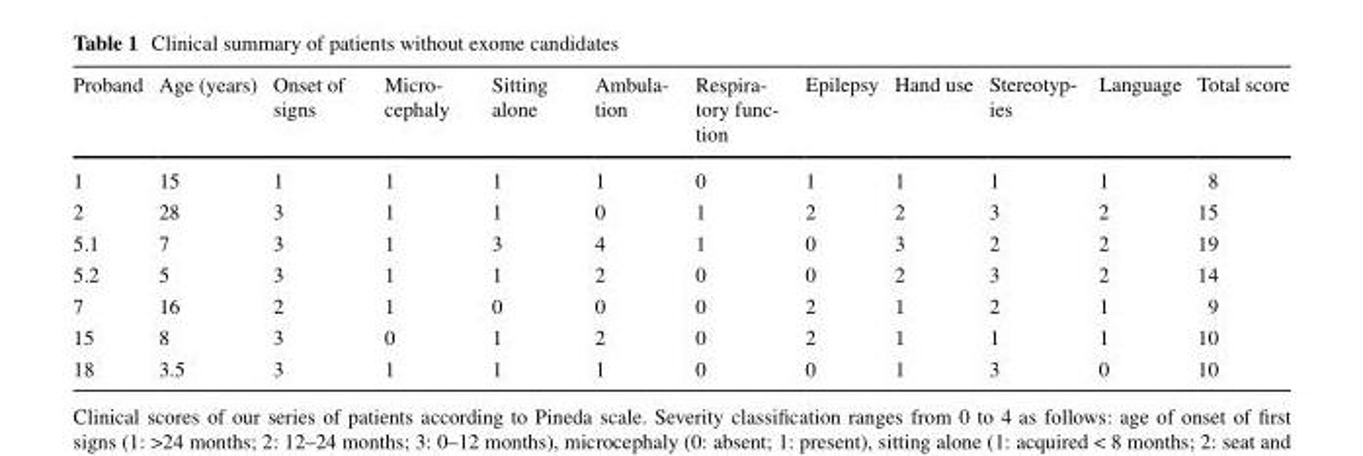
<table><thead><tr><td>Proband</td><td>Age (years)</td><td>Onset of signs</td><td>Micro- cephaly</td><td>Sitting alone</td><td>Ambula- tion</td><td>Respira- tory func- tion</td><td>Epilepsy</td><td>Hand use</td><td>Stereotyp- ies</td><td>Language</td><td>Total score</td></tr></thead><tbody><tr><td>1</td><td>15</td><td>1</td><td>1</td><td>1</td><td>1</td><td>0</td><td>1</td><td>1</td><td>1</td><td>1</td><td>8</td></tr><tr><td>2</td><td>28</td><td>3</td><td>1</td><td>1</td><td>0</td><td>1</td><td>2</td><td>2</td><td>3</td><td>2</td><td>15</td></tr><tr><td>5.1</td><td>7</td><td>3</td><td>1</td><td>3</td><td>4</td><td>1</td><td>0</td><td>3</td><td>2</td><td>2</td><td>19</td></tr><tr><td>5.2</td><td>5</td><td>3</td><td>1</td><td>1</td><td>2</td><td>0</td><td>0</td><td>2</td><td>3</td><td>2</td><td>14</td></tr><tr><td>7</td><td>16</td><td>2</td><td>1</td><td>0</td><td>0</td><td>0</td><td>2</td><td>1</td><td>2</td><td>1</td><td>9</td></tr><tr><td>15</td><td>8</td><td>3</td><td>0</td><td>1</td><td>2</td><td>0</td><td>2</td><td>1</td><td>1</td><td>1</td><td>10</td></tr><tr><td>18</td><td>3.5</td><td>3</td><td>1</td><td>1</td><td>1</td><td>0</td><td>0</td><td>1</td><td>3</td><td>0</td><td>10</td></tr></tbody></table>